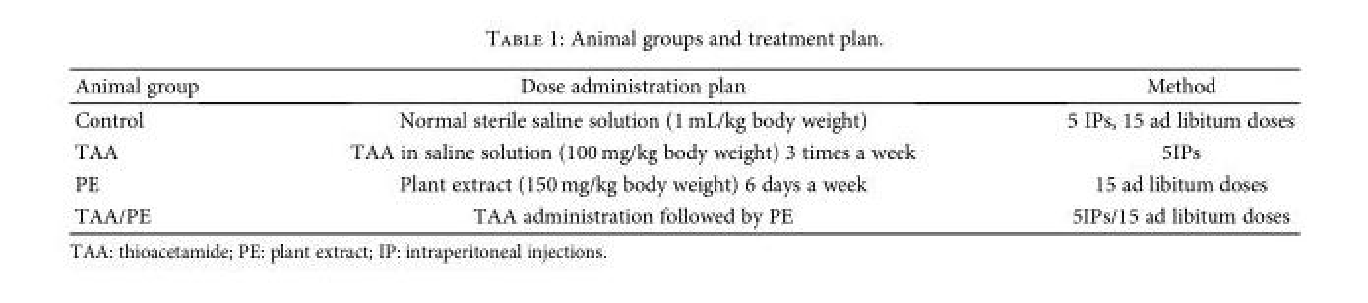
<table><thead><tr><td>Animal group</td><td>Dose administration plan</td><td>Method</td></tr></thead><tbody><tr><td>Control</td><td>Normal sterile saline solution (1 mL/kg body weight)</td><td>5 IPs, 15 ad libitum doses</td></tr><tr><td>TAA</td><td>TAA in saline solution (100 mg/kg body weight) 3 times a week</td><td>5IPs</td></tr><tr><td>PE</td><td>Plant extract (150 mg/kg body weight) 6 days a week</td><td>15 ad libitum doses</td></tr><tr><td>TAA/PE</td><td>TAA administration followed by PE</td><td>5IPs/15 ad libitum doses</td></tr></tbody></table>